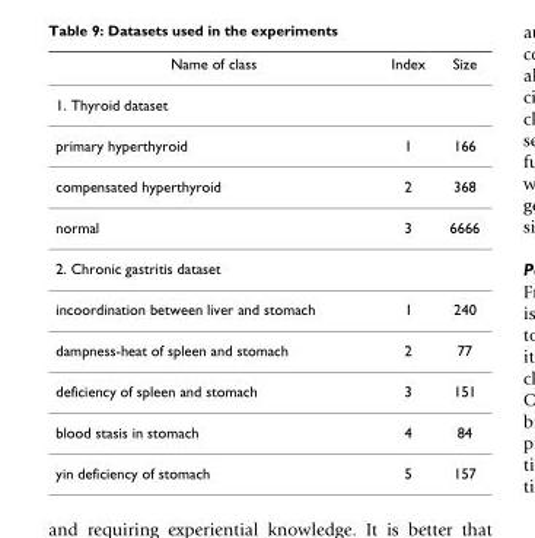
<table><thead><tr><td>Name of class</td><td>Index</td><td>Size</td></tr></thead><tbody><tr><td colspan="3">1. Thyroid dataset</td></tr><tr><td>primary hyperthyroid</td><td>1</td><td>166</td></tr><tr><td>compensated hyperthyroid</td><td>2</td><td>368</td></tr><tr><td>normal</td><td>3</td><td>6666</td></tr><tr><td colspan="3">2. Chronic gastritis dataset</td></tr><tr><td>incoordination between liver and stomach</td><td>1</td><td>240</td></tr><tr><td>dampness-heat of spleen and stomach</td><td>2</td><td>77</td></tr><tr><td>deficiency of spleen and stomach</td><td>3</td><td>151</td></tr><tr><td>blood stasis in stomach</td><td>4</td><td>84</td></tr><tr><td>yin deficiency of stomach</td><td>5</td><td>157</td></tr></tbody></table>